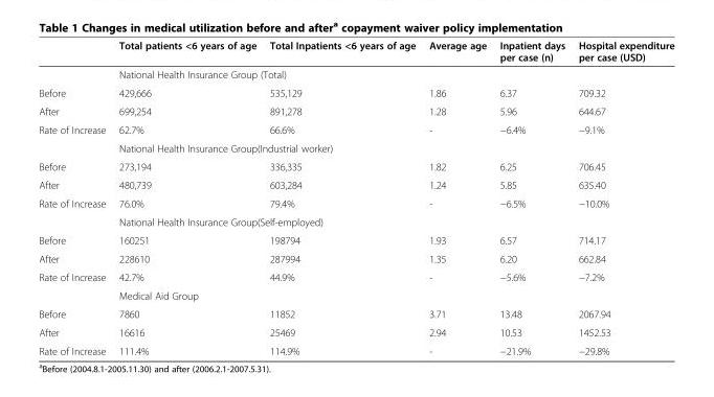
<table><thead><tr><td></td><td>Total patients &lt;6 years of age</td><td>Total Inpatients &lt;6 years of age</td><td>Average age</td><td>Inpatient days per case (n)</td><td>Hospital expenditure per case (USD)</td></tr></thead><tbody><tr><td></td><td colspan="5">National Health Insurance Group (Total)</td></tr><tr><td>Before</td><td>429,666</td><td>535,129</td><td>1.86</td><td>6.37</td><td>709.32</td></tr><tr><td>After</td><td>699,254</td><td>891,278</td><td>1.28</td><td>5.96</td><td>644.67</td></tr><tr><td rowspan="2">Rate of Increase</td><td>62.7%</td><td>66.6%</td><td>-</td><td>−6.4%</td><td>−9.1%</td></tr><tr><td colspan="5">National Health Insurance Group(Industrial worker)</td></tr><tr><td>Before</td><td>273,194</td><td>336,335</td><td>1.82</td><td>6.25</td><td>706.45</td></tr><tr><td>After</td><td>480,739</td><td>603,284</td><td>1.24</td><td>5.85</td><td>635.40</td></tr><tr><td rowspan="2">Rate of Increase</td><td>76.0%</td><td>79.4%</td><td>-</td><td>−6.5%</td><td>−10.0%</td></tr><tr><td colspan="5">National Health Insurance Group(Self-employed)</td></tr><tr><td>Before</td><td>160251</td><td>198794</td><td>1.93</td><td>6.57</td><td>714.17</td></tr><tr><td>After</td><td>228610</td><td>287994</td><td>1.35</td><td>6.20</td><td>662.84</td></tr><tr><td rowspan="2">Rate of Increase</td><td>42.7%</td><td>44.9%</td><td>-</td><td>−5.6%</td><td>−7.2%</td></tr><tr><td colspan="5">Medical Aid Group</td></tr><tr><td>Before</td><td>7860</td><td>11852</td><td>3.71</td><td>13.48</td><td>2067.94</td></tr><tr><td>After</td><td>16616</td><td>25469</td><td>2.94</td><td>10.53</td><td>1452.53</td></tr><tr><td>Rate of Increase</td><td>111.4%</td><td>114.9%</td><td>-</td><td>−21.9%</td><td>−29.8%</td></tr></tbody></table>